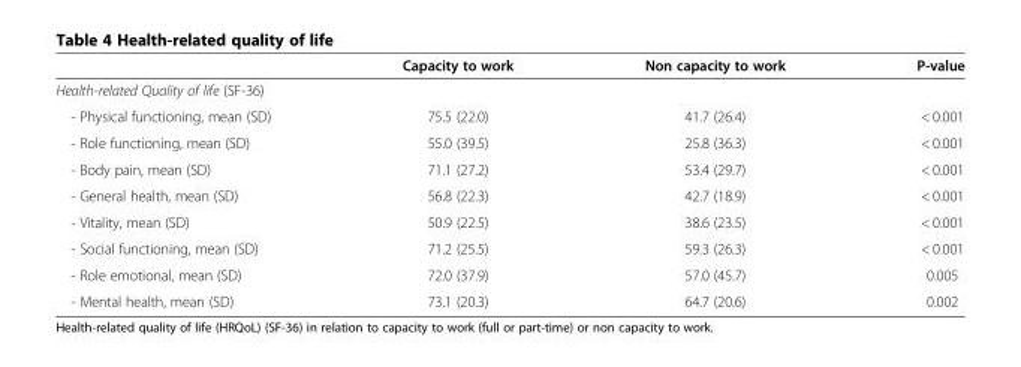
<table><thead><tr><td></td><td>Capacity to work</td><td>Non capacity to work</td><td>P-value</td></tr></thead><tbody><tr><td colspan="4">Health-related Quality of life (SF-36)</td></tr><tr><td>- Physical functioning, mean (SD)</td><td>75.5 (22.0)</td><td>41.7 (26.4)</td><td>&lt; 0.001</td></tr><tr><td>- Role functioning, mean (SD)</td><td>55.0 (39.5)</td><td>25.8 (36.3)</td><td>&lt; 0.001</td></tr><tr><td>- Body pain, mean (SD)</td><td>71.1 (27.2)</td><td>53.4 (29.7)</td><td>&lt; 0.001</td></tr><tr><td>- General health, mean (SD)</td><td>56.8 (22.3)</td><td>42.7 (18.9)</td><td>&lt; 0.001</td></tr><tr><td>- Vitality, mean (SD)</td><td>50.9 (22.5)</td><td>38.6 (23.5)</td><td>&lt; 0.001</td></tr><tr><td>- Social functioning, mean (SD)</td><td>71.2 (25.5)</td><td>59.3 (26.3)</td><td>&lt; 0.001</td></tr><tr><td>- Role emotional, mean (SD)</td><td>72.0 (37.9)</td><td>57.0 (45.7)</td><td>0.005</td></tr><tr><td>- Mental health, mean (SD)</td><td>73.1 (20.3)</td><td>64.7 (20.6)</td><td>0.002</td></tr></tbody></table>